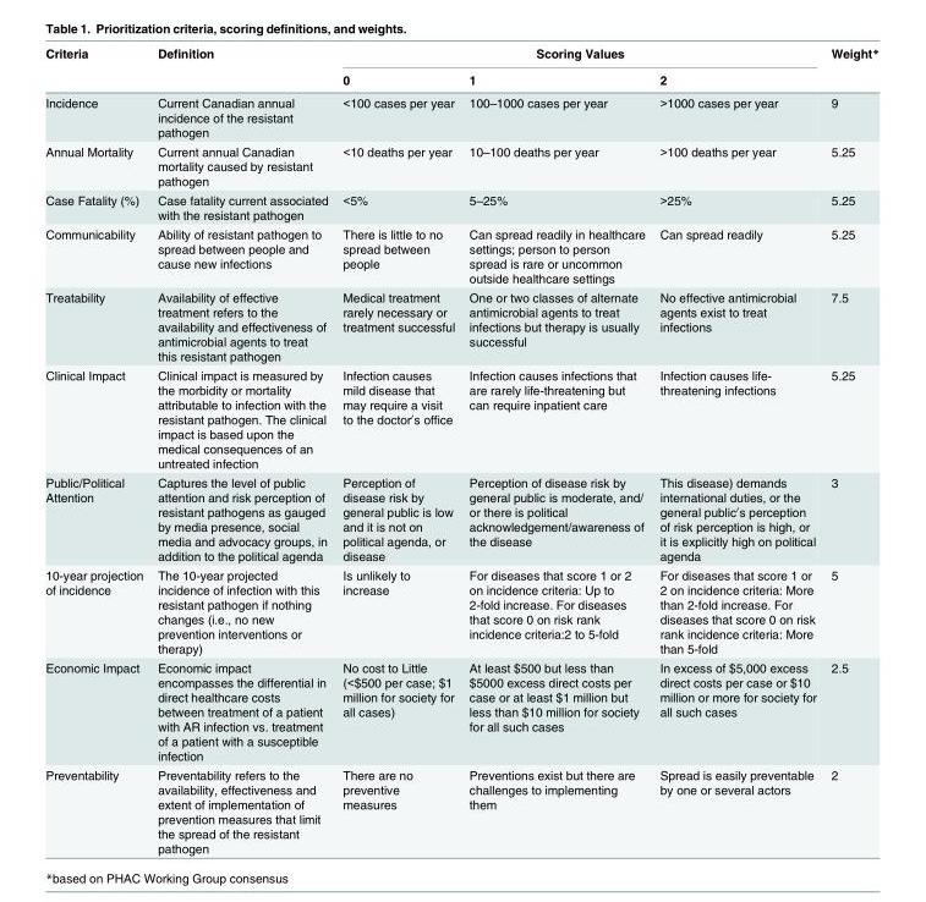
<table><thead><tr><td rowspan="2">Criteria</td><td rowspan="2">Definition</td><td colspan="3">Scoring Values</td><td rowspan="2">Weight*</td></tr><tr><td>0</td><td>1</td><td>2</td></tr></thead><tbody><tr><td>Incidence</td><td>Current Canadian annual incidence of the resistant pathogen</td><td>&lt;100 cases per year</td><td>100–1000 cases per year</td><td>&gt;1000 cases per year</td><td>9</td></tr><tr><td>Annual Mortality</td><td>Current annual Canadian mortality caused by resistant pathogen</td><td>&lt;10 deaths per year</td><td>10–100 deaths per year</td><td>&gt;100 deaths per year</td><td>5.25</td></tr><tr><td>Case Fatality (%)</td><td>Case fatality current associated with the resistant pathogen</td><td>&lt;5%</td><td>5–25%</td><td>&gt;25%</td><td>5.25</td></tr><tr><td>Communicability</td><td>Ability of resistant pathogen to spread between people and cause new infections</td><td>There is little to no spread between people</td><td>Can spread readily in healthcare settings; person to person spread is rare or uncommon outside healthcare settings</td><td>Can spread readily</td><td>5.25</td></tr><tr><td>Treatability</td><td>Availability of effective treatment refers to the availability and effectiveness of antimicrobial agents to treat this resistant pathogen</td><td>Medical treatment rarely necessary or treatment successful</td><td>One or two classes of alternate antimicrobial agents to treat infections but therapy is usually successful</td><td>No effective antimicrobial agents exist to treat infections</td><td>7.5</td></tr><tr><td>Clinical Impact</td><td>Clinical impact is measured by the morbidity or mortality attributable to infection with the resistant pathogen. The clinical impact is based upon the medical consequences of an untreated infection</td><td>Infection causes mild disease that may require a visit to the doctor′s office</td><td>Infection causes infections that are rarely life-threatening but can require inpatient care</td><td>Infection causes life- threatening infections</td><td>5.25</td></tr><tr><td>Public/Political Attention</td><td>Captures the level of public attention and risk perception of resistant pathogens as gauged by media presence, social media and advocacy groups, in addition to the political agenda</td><td>Perception of disease risk by general public is low and it is not on political agenda, or disease</td><td>Perception of disease risk by general public is moderate, and/ or there is political acknowledgement/awareness of the disease</td><td>This disease) demands international duties, or the general public′s perception of risk perception is high, or it is explicitly high on political agenda</td><td>3</td></tr><tr><td>10-year projection of incidence</td><td>The 10-year projected incidence of infection with this resistant pathogen if nothing changes (i.e., no new prevention interventions or therapy)</td><td>Is unlikely to increase</td><td>For diseases that score 1 or 2 on incidence criteria: Up to 2-fold increase. For diseases that score 0 on risk rank incidence criteria:2 to 5-fold</td><td>For diseases that score 1 or 2 on incidence criteria: More than 2-fold increase. For diseases that score 0 on risk rank incidence criteria: More than 5-fold</td><td>5</td></tr><tr><td>Economic Impact</td><td>Economic impact encompasses the differential in direct healthcare costs between treatment of a patient with AR infection vs. treatment of a patient with a susceptible infection</td><td>No cost to Little (&lt;$500 per case; $1 million for society for all cases)</td><td>At least $500 but less than $5000 excess direct costs per case or at least $1 million but less than $10 million for society for all such cases</td><td>In excess of $5,000 excess direct costs per case or $10 million or more for society for all such cases</td><td>2.5</td></tr><tr><td>Preventability</td><td>Preventability refers to the availability, effectiveness and extent of implementation of prevention measures that limit the spread of the resistant pathogen</td><td>There are no preventive measures</td><td>Preventions exist but there are challenges to implementing them</td><td>Spread is easily preventable by one or several actors</td><td>2</td></tr></tbody></table>